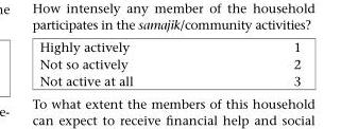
<table><tbody><tr><td>Highly actively</td><td>1</td></tr><tr><td>Not so actively</td><td>2</td></tr><tr><td>Not active at all</td><td>3</td></tr></tbody></table>